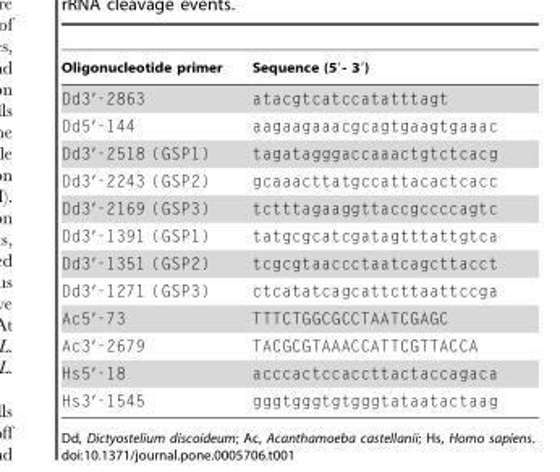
<table><thead><tr><td>Oligonucleotide primer</td><td>Sequence (5′- 3′)</td></tr></thead><tbody><tr><td>Dd3′-2863</td><td>atacgtcatccatatttagt</td></tr><tr><td>Dd5′-144</td><td>aagaagaaacgcagtgaagtgaaac</td></tr><tr><td>Dd3′-2518 (GSP1)</td><td>tagatagggaccaaactgtctcacg</td></tr><tr><td>Dd3′-2243 (GSP2)</td><td>gcaaacttatgccattacactcacc</td></tr><tr><td>Dd3′-2169 (GSP3)</td><td>tctttagaaggttaccgccccagtc</td></tr><tr><td>Dd3′-1391 (GSP1)</td><td>tatgcgcatcgatagtttattgtca</td></tr><tr><td>Dd3′-1351 (GSP2)</td><td>tcgcgtaaccctaatcagcttacct</td></tr><tr><td>Dd3′-1271 (GSP3)</td><td>ctcatatcagcattcttaattccga</td></tr><tr><td>Ac5′-73</td><td>TTTCTGGCGCCTAATCGAGC</td></tr><tr><td>Ac3′-2679</td><td>TACGCGTAAACCATTCGTTACCA</td></tr><tr><td>Hs5′-18</td><td>acccactccaccttactaccagaca</td></tr><tr><td>Hs3′-1545</td><td>gggtgggtgtgggtataatactaag</td></tr></tbody></table>